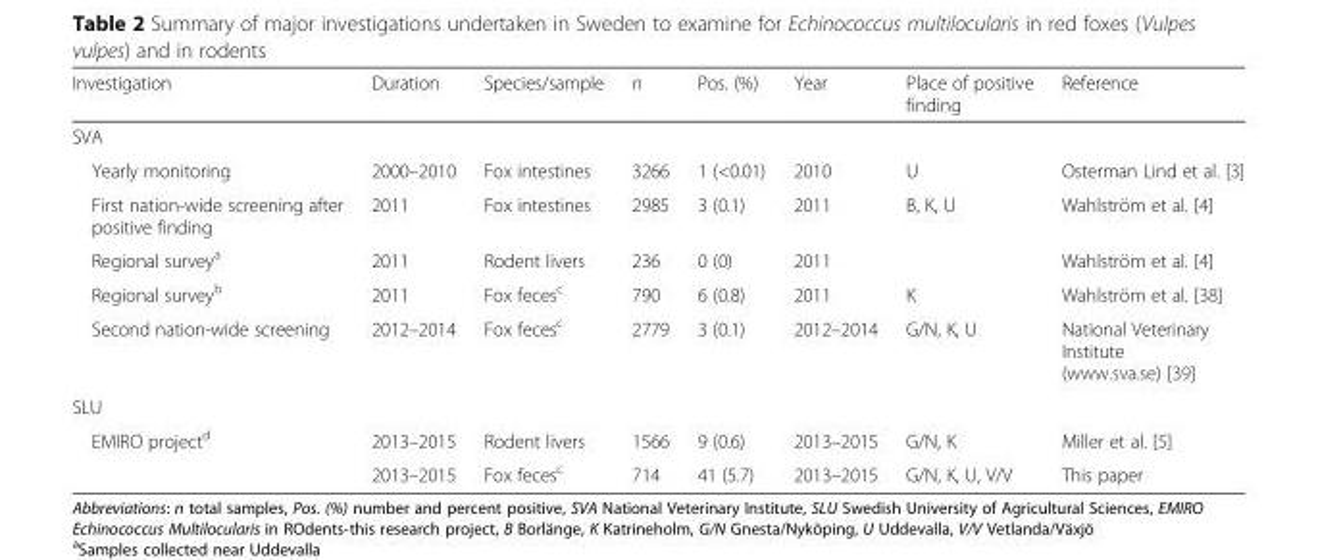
<table><thead><tr><td>Investigation</td><td>Duration</td><td>Species/sample</td><td>n</td><td>Pos. (%)</td><td>Year</td><td>Place of positive finding</td><td>Reference</td></tr></thead><tbody><tr><td colspan="8">SVA</td></tr><tr><td>Yearly monitoring</td><td>2000–2010</td><td>Fox intestines</td><td>3266</td><td>1 (&lt;0.01)</td><td>2010</td><td>U</td><td>Osterman Lind et al. [3]</td></tr><tr><td>First nation-wide screening after positive finding</td><td>2011</td><td>Fox intestines</td><td>2985</td><td>3 (0.1)</td><td>2011</td><td>B, K, U</td><td>Wahlström et al. [4]</td></tr><tr><td>Regional survey<sup>a</sup></td><td>2011</td><td>Rodent livers</td><td>236</td><td>0 (0)</td><td>2011</td><td></td><td>Wahlström et al. [4]</td></tr><tr><td>Regional survey<sup>b</sup></td><td>2011</td><td>Fox feces<sup>c</sup></td><td>790</td><td>6 (0.8)</td><td>2011</td><td>K</td><td>Wahlström et al. [38]</td></tr><tr><td>Second nation-wide screening</td><td>2012–2014</td><td>Fox feces<sup>c</sup></td><td>2779</td><td>3 (0.1)</td><td>2012–2014</td><td>G/N, K, U</td><td>National Veterinary Institute (www.sva.se) [39]</td></tr><tr><td colspan="8">SLU</td></tr><tr><td rowspan="2">EMIRO project<sup>d</sup></td><td>2013–2015</td><td>Rodent livers</td><td>1566</td><td>9 (0.6)</td><td>2013–2015</td><td>G/N, K</td><td>Miller et al. [5]</td></tr><tr><td>2013–2015</td><td>Fox feces<sup>c</sup></td><td>714</td><td>41 (5.7)</td><td>2013–2015</td><td>G/N, K, U, V/V</td><td>This paper</td></tr></tbody></table>